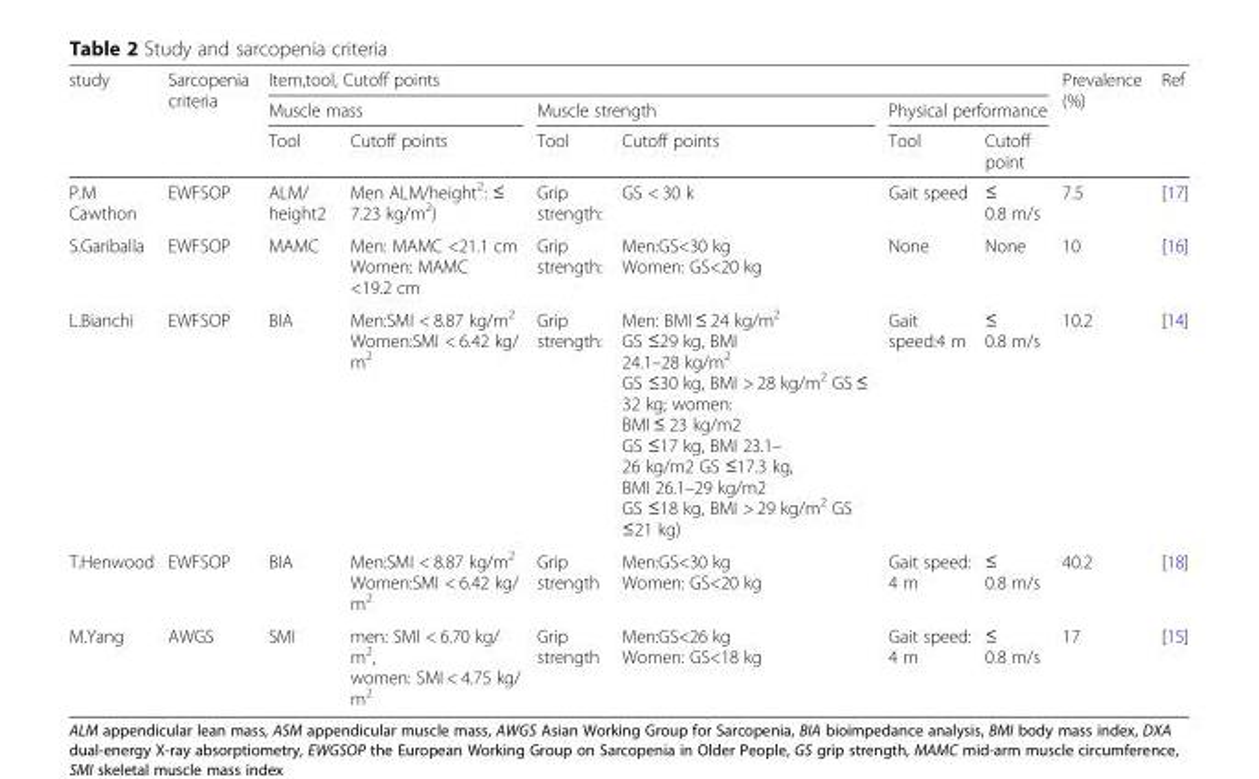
<table><thead><tr><td rowspan="3">study</td><td rowspan="3">Sarcopenia criteria</td><td colspan="6">Item,tool, Cutoff points</td><td rowspan="3">Prevalence (%)</td><td rowspan="3">Ref</td></tr><tr><td colspan="2">Muscle mass</td><td colspan="2">Muscle strength</td><td colspan="2">Physical performance</td></tr><tr><td>Tool</td><td>Cutoff points</td><td>Tool</td><td>Cutoff points</td><td>Tool</td><td>Cutoff point</td></tr></thead><tbody><tr><td>P.M Cawthon</td><td>EWFSOP</td><td>ALM/ height2</td><td>Men ALM/height<sup>2</sup>: ≤ 7.23 kg/m<sup>2</sup>)</td><td>Grip strength:</td><td>GS &lt; 30 k</td><td>Gait speed</td><td>≤ 0.8 m/s</td><td>7.5</td><td>[17]</td></tr><tr><td>S.Gariballa</td><td>EWFSOP</td><td>MAMC</td><td>Men: MAMC &lt;21.1 cm Women: MAMC &lt;19.2 cm</td><td>Grip strength:</td><td>Men:GS&lt;30 kg Women: GS&lt;20 kg</td><td>None</td><td>None</td><td>10</td><td>[16]</td></tr><tr><td>L.Bianchi</td><td>EWFSOP</td><td>BIA</td><td>Men:SMI &lt; 8.87 kg/m<sup>2</sup> Women:SMI &lt; 6.42 kg/ m<sup>2</sup></td><td>Grip strength:</td><td>Men: BMI ≤ 24 kg/m<sup>2</sup> GS ≤29 kg, BMI 24.1–28 kg/m<sup>2</sup> GS ≤30 kg, BMI &gt; 28 kg/m<sup>2</sup> GS ≤ 32 kg; women: BMI ≤ 23 kg/m2 GS ≤17 kg, BMI 23.1– 26 kg/m2 GS ≤17.3 kg, BMI 26.1–29 kg/m2 GS ≤18 kg, BMI &gt; 29 kg/m<sup>2</sup> GS ≤21 kg)</td><td>Gait speed:4 m</td><td>≤ 0.8 m/s</td><td>10.2</td><td>[14]</td></tr><tr><td>T.Henwood</td><td>EWFSOP</td><td>BIA</td><td>Men:SMI &lt; 8.87 kg/m<sup>2</sup> Women:SMI &lt; 6.42 kg/ m<sup>2</sup></td><td>Grip strength</td><td>Men:GS&lt;30 kg Women: GS&lt;20 kg</td><td>Gait speed: 4 m</td><td>≤ 0.8 m/s</td><td>40.2</td><td>[18]</td></tr><tr><td>M.Yang</td><td>AWGS</td><td>SMI</td><td>men: SMI &lt; 6.70 kg/ m<sup>2</sup>, women: SMI &lt; 4.75 kg/ m<sup>2</sup></td><td>Grip strength</td><td>Men:GS&lt;26 kg Women: GS&lt;18 kg</td><td>Gait speed: 4 m</td><td>≤ 0.8 m/s</td><td>17</td><td>[15]</td></tr></tbody></table>